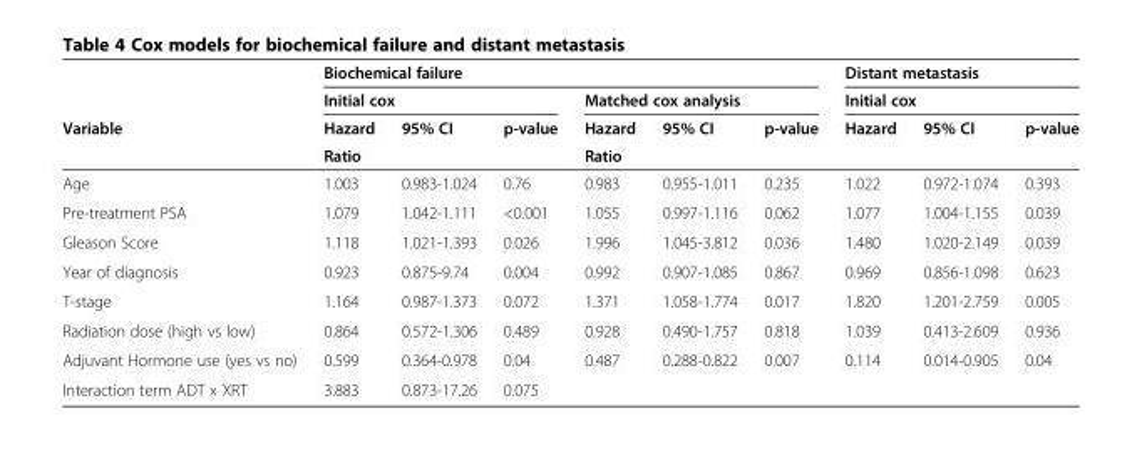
<table><thead><tr><td rowspan="4">Variable</td><td colspan="6">Biochemical failure</td><td rowspan="2" colspan="3">Distant metastasis Initial cox</td></tr><tr><td colspan="3">Initial cox</td><td colspan="3">Matched cox analysis</td></tr><tr><td rowspan="2">Hazard Ratio</td><td rowspan="2">95% CI</td><td rowspan="2">p-value</td><td rowspan="2">Hazard Ratio</td><td rowspan="2">95% CI</td><td rowspan="2">p-value</td><td rowspan="2">Hazard</td><td rowspan="2">95% CI</td><td rowspan="2">p-value</td></tr><tr></tr></thead><tbody><tr><td>Age</td><td>1.003</td><td>0.983-1.024</td><td>0.76</td><td>0.983</td><td>0.955-1.011</td><td>0.235</td><td>1.022</td><td>0.972-1.074</td><td>0.393</td></tr><tr><td>Pre-treatment PSA</td><td>1.079</td><td>1.042-1.111</td><td>&lt;0.001</td><td>1.055</td><td>0.997-1.116</td><td>0.062</td><td>1.077</td><td>1.004-1.155</td><td>0.039</td></tr><tr><td>Gleason Score</td><td>1.118</td><td>1.021-1.393</td><td>0.026</td><td>1.996</td><td>1.045-3.812</td><td>0.036</td><td>1.480</td><td>1.020-2.149</td><td>0.039</td></tr><tr><td>Year of diagnosis</td><td>0.923</td><td>0.875-9.74</td><td>0.004</td><td>0.992</td><td>0.907-1.085</td><td>0.867</td><td>0.969</td><td>0.856-1.098</td><td>0.623</td></tr><tr><td>T-stage</td><td>1.164</td><td>0.987-1.373</td><td>0.072</td><td>1.371</td><td>1.058-1.774</td><td>0.017</td><td>1.820</td><td>1.201-2.759</td><td>0.005</td></tr><tr><td>Radiation dose (high vs low)</td><td>0.864</td><td>0.572-1.306</td><td>0.489</td><td>0.928</td><td>0.490-1.757</td><td>0.818</td><td>1.039</td><td>0.413-2.609</td><td>0.936</td></tr><tr><td>Adjuvant Hormone use (yes vs no)</td><td>0.599</td><td>0.364-0.978</td><td>0.04</td><td>0.487</td><td>0.288-0.822</td><td>0.007</td><td>0.114</td><td>0.014-0.905</td><td>0.04</td></tr><tr><td>Interaction term ADT x XRT</td><td>3.883</td><td>0.873-17.26</td><td>0.075</td><td></td><td></td><td></td><td></td><td></td><td></td></tr></tbody></table>